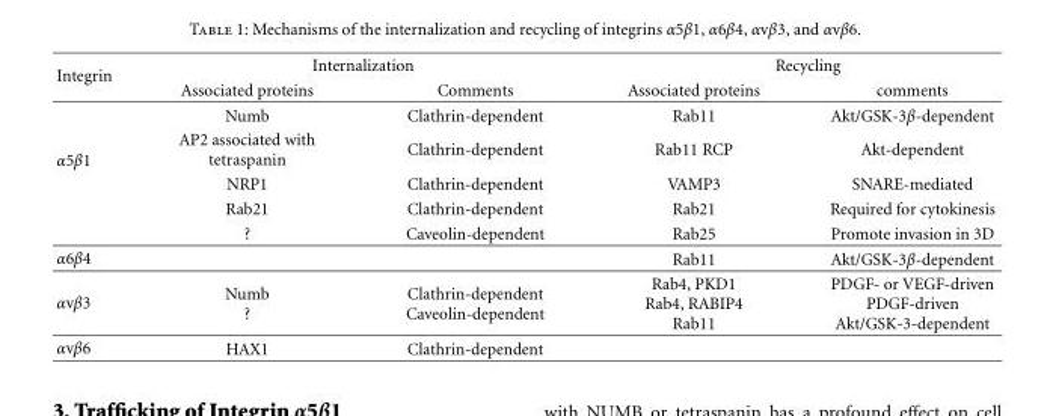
<table><thead><tr><td rowspan="2">Integrin</td><td colspan="2">Internalization</td><td colspan="2">Recycling</td></tr><tr><td>Associated proteins</td><td>Comments</td><td>Associated proteins</td><td>comments</td></tr></thead><tbody><tr><td rowspan="5">α5β1</td><td>Numb</td><td>Clathrin-dependent</td><td>Rab11</td><td>Akt/GSK-3β-dependent</td></tr><tr><td>AP2 associated with tetraspanin</td><td>Clathrin-dependent</td><td>Rab11 RCP</td><td>Akt-dependent</td></tr><tr><td>NRP1</td><td>Clathrin-dependent</td><td>VAMP3</td><td>SNARE-mediated</td></tr><tr><td>Rab21</td><td>Clathrin-dependent</td><td>Rab21</td><td>Required for cytokinesis</td></tr><tr><td>?</td><td>Caveolin-dependent</td><td>Rab25</td><td>Promote invasion in 3D</td></tr><tr><td>α6β4</td><td></td><td></td><td>Rab11</td><td>Akt/GSK-3β-dependent</td></tr><tr><td>αvβ3</td><td>Numb ?</td><td>Clathrin-dependent Caveolin-dependent</td><td>Rab4, PKD1 Rab4, RABIP4 Rab11</td><td>PDGF- or VEGF-driven PDGF-driven Akt/GSK-3-dependent</td></tr><tr><td>αvβ6</td><td>HAX1</td><td>Clathrin-dependent</td><td></td><td></td></tr></tbody></table>